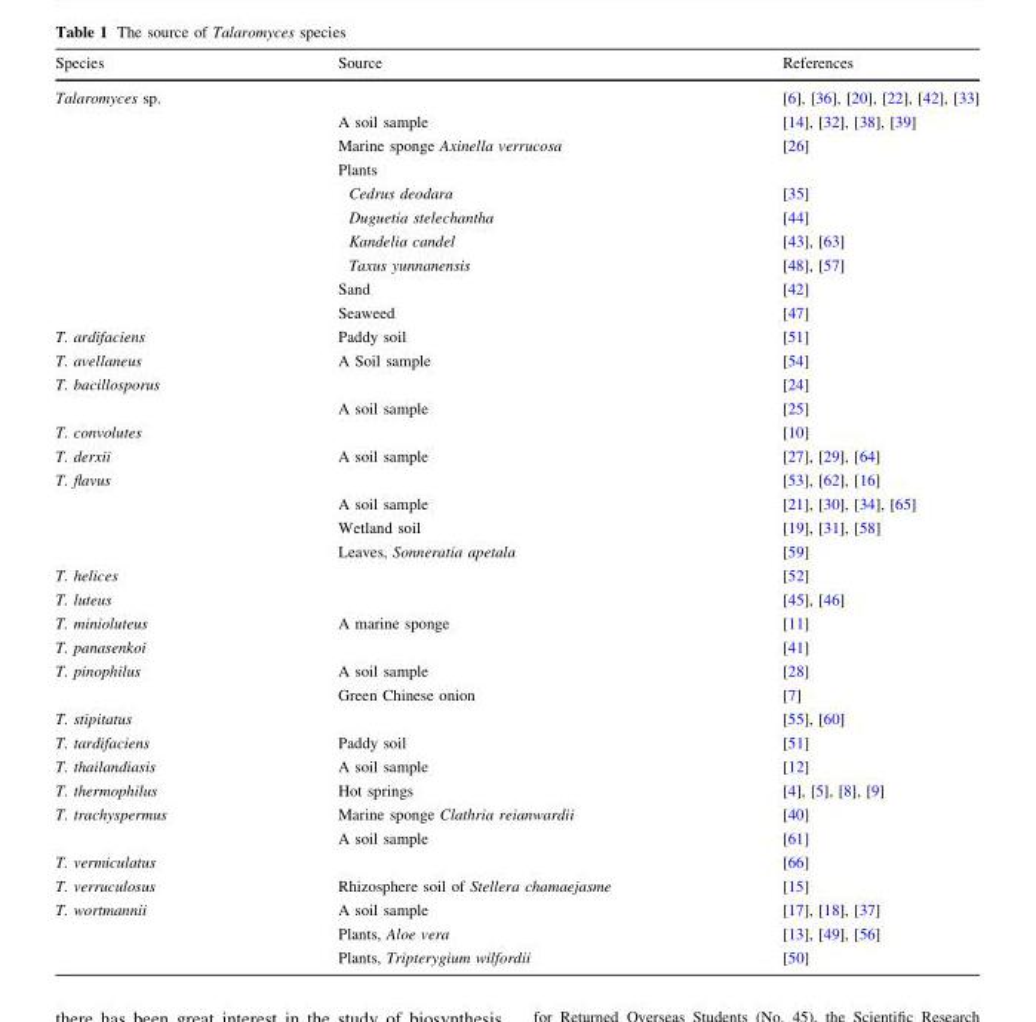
<table><thead><tr><td>Species</td><td>Source</td><td>References</td></tr></thead><tbody><tr><td rowspan="10">Talaromyces sp.</td><td></td><td>[6], [36], [20], [22], [42], [33]</td></tr><tr><td>A soil sample</td><td>[14], [32], [38], [39]</td></tr><tr><td>Marine sponge Axinella verrucosa</td><td>[26]</td></tr><tr><td>Plants</td><td></td></tr><tr><td>Cedrus deodara</td><td>[35]</td></tr><tr><td>Duguetia stelechantha</td><td>[44]</td></tr><tr><td>Kandelia candel</td><td>[43], [63]</td></tr><tr><td>Taxus yunnanensis</td><td>[48], [57]</td></tr><tr><td>Sand</td><td>[42]</td></tr><tr><td>Seaweed</td><td>[47]</td></tr><tr><td>T. ardifaciens</td><td>Paddy soil</td><td>[51]</td></tr><tr><td>T. avellaneus</td><td>A Soil sample</td><td>[54]</td></tr><tr><td rowspan="2">T. bacillosporus</td><td></td><td>[24]</td></tr><tr><td>A soil sample</td><td>[25]</td></tr><tr><td>T. convolutes</td><td></td><td>[10]</td></tr><tr><td>T. derxii</td><td>A soil sample</td><td>[27], [29], [64]</td></tr><tr><td rowspan="4">T. flavus</td><td></td><td>[53], [62], [16]</td></tr><tr><td>A soil sample</td><td>[21], [30], [34], [65]</td></tr><tr><td>Wetland soil</td><td>[19], [31], [58]</td></tr><tr><td>Leaves, Sonneratia apetala</td><td>[59]</td></tr><tr><td>T. helices</td><td></td><td>[52]</td></tr><tr><td>T. luteus</td><td></td><td>[45], [46]</td></tr><tr><td>T. minioluteus</td><td>A marine sponge</td><td>[11]</td></tr><tr><td>T. panasenkoi</td><td></td><td>[41]</td></tr><tr><td rowspan="2">T. pinophilus</td><td>A soil sample</td><td>[28]</td></tr><tr><td>Green Chinese onion</td><td>[7]</td></tr><tr><td>T. stipitatus</td><td></td><td>[55], [60]</td></tr><tr><td>T. tardifaciens</td><td>Paddy soil</td><td>[51]</td></tr><tr><td>T. thailandiasis</td><td>A soil sample</td><td>[12]</td></tr><tr><td>T. thermophilus</td><td>Hot springs</td><td>[4], [5], [8], [9]</td></tr><tr><td rowspan="2">T. trachyspermus</td><td>Marine sponge Clathria reianwardii</td><td>[40]</td></tr><tr><td>A soil sample</td><td>[61]</td></tr><tr><td>T. vermiculatus</td><td></td><td>[66]</td></tr><tr><td>T. verruculosus</td><td>Rhizosphere soil of Stellera chamaejasme</td><td>[15]</td></tr><tr><td rowspan="3">T. wortmannii</td><td>A soil sample</td><td>[17], [18], [37]</td></tr><tr><td>Plants, Aloe vera</td><td>[13], [49], [56]</td></tr><tr><td>Plants, Tripterygium wilfordii</td><td>[50]</td></tr></tbody></table>